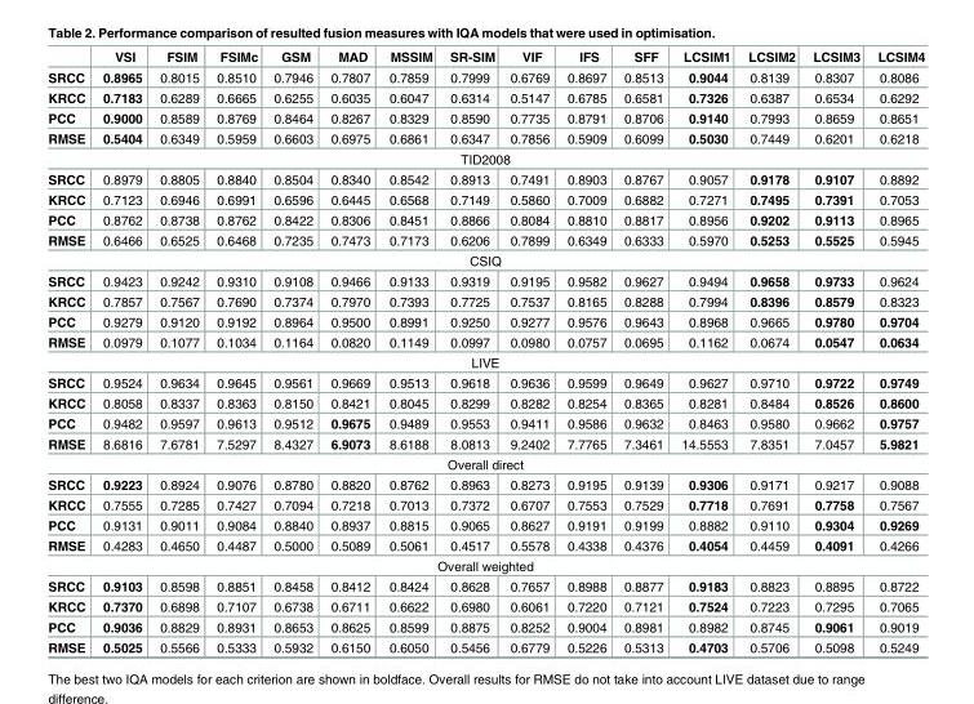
<table><thead><tr><td></td><td>VSI</td><td>FSIM</td><td>FSIMc</td><td>GSM</td><td>MAD</td><td>MSSIM</td><td>SR-SIM</td><td>VIF</td><td>IFS</td><td>SFF</td><td>LCSIM1</td><td>LCSIM2</td><td>LCSIM3</td><td>LCSIM4</td></tr></thead><tbody><tr><td>SRCC</td><td>0.8965</td><td>0.8015</td><td>0.8510</td><td>0.7946</td><td>0.7807</td><td>0.7859</td><td>0.7999</td><td>0.6769</td><td>0.8697</td><td>0.8513</td><td>0.9044</td><td>0.8139</td><td>0.8307</td><td>0.8086</td></tr><tr><td>KRCC</td><td>0.7183</td><td>0.6289</td><td>0.6665</td><td>0.6255</td><td>0.6035</td><td>0.6047</td><td>0.6314</td><td>0.5147</td><td>0.6785</td><td>0.6581</td><td>0.7326</td><td>0.6387</td><td>0.6534</td><td>0.6292</td></tr><tr><td>PCC</td><td>0.9000</td><td>0.8589</td><td>0.8769</td><td>0.8464</td><td>0.8267</td><td>0.8329</td><td>0.8590</td><td>0.7735</td><td>0.8791</td><td>0.8706</td><td>0.9140</td><td>0.7993</td><td>0.8659</td><td>0.8651</td></tr><tr><td>RMSE</td><td>0.5404</td><td>0.6349</td><td>0.5959</td><td>0.6603</td><td>0.6975</td><td>0.6861</td><td>0.6347</td><td>0.7856</td><td>0.5909</td><td>0.6099</td><td>0.5030</td><td>0.7449</td><td>0.6201</td><td>0.6218</td></tr><tr><td colspan="15">TID2008</td></tr><tr><td>SRCC</td><td>0.8979</td><td>0.8805</td><td>0.8840</td><td>0.8504</td><td>0.8340</td><td>0.8542</td><td>0.8913</td><td>0.7491</td><td>0.8903</td><td>0.8767</td><td>0.9057</td><td>0.9178</td><td>0.9107</td><td>0.8892</td></tr><tr><td>KRCC</td><td>0.7123</td><td>0.6946</td><td>0.6991</td><td>0.6596</td><td>0.6445</td><td>0.6568</td><td>0.7149</td><td>0.5860</td><td>0.7009</td><td>0.6882</td><td>0.7271</td><td>0.7495</td><td>0.7391</td><td>0.7053</td></tr><tr><td>PCC</td><td>0.8762</td><td>0.8738</td><td>0.8762</td><td>0.8422</td><td>0.8306</td><td>0.8451</td><td>0.8866</td><td>0.8084</td><td>0.8810</td><td>0.8817</td><td>0.8956</td><td>0.9202</td><td>0.9113</td><td>0.8965</td></tr><tr><td>RMSE</td><td>0.6466</td><td>0.6525</td><td>0.6468</td><td>0.7235</td><td>0.7473</td><td>0.7173</td><td>0.6206</td><td>0.7899</td><td>0.6349</td><td>0.6333</td><td>0.5970</td><td>0.5253</td><td>0.5525</td><td>0.5945</td></tr><tr><td colspan="15">CSIQ</td></tr><tr><td>SRCC</td><td>0.9423</td><td>0.9242</td><td>0.9310</td><td>0.9108</td><td>0.9466</td><td>0.9133</td><td>0.9319</td><td>0.9195</td><td>0.9582</td><td>0.9627</td><td>0.9494</td><td>0.9658</td><td>0.9733</td><td>0.9624</td></tr><tr><td>KRCC</td><td>0.7857</td><td>0.7567</td><td>0.7690</td><td>0.7374</td><td>0.7970</td><td>0.7393</td><td>0.7725</td><td>0.7537</td><td>0.8165</td><td>0.8288</td><td>0.7994</td><td>0.8396</td><td>0.8579</td><td>0.8323</td></tr><tr><td>PCC</td><td>0.9279</td><td>0.9120</td><td>0.9192</td><td>0.8964</td><td>0.9500</td><td>0.8991</td><td>0.9250</td><td>0.9277</td><td>0.9576</td><td>0.9643</td><td>0.8968</td><td>0.9665</td><td>0.9780</td><td>0.9704</td></tr><tr><td>RMSE</td><td>0.0979</td><td>0.1077</td><td>0.1034</td><td>0.1164</td><td>0.0820</td><td>0.1149</td><td>0.0997</td><td>0.0980</td><td>0.0757</td><td>0.0695</td><td>0.1162</td><td>0.0674</td><td>0.0547</td><td>0.0634</td></tr><tr><td colspan="15">LIVE</td></tr><tr><td>SRCC</td><td>0.9524</td><td>0.9634</td><td>0.9645</td><td>0.9561</td><td>0.9669</td><td>0.9513</td><td>0.9618</td><td>0.9636</td><td>0.9599</td><td>0.9649</td><td>0.9627</td><td>0.9710</td><td>0.9722</td><td>0.9749</td></tr><tr><td>KRCC</td><td>0.8058</td><td>0.8337</td><td>0.8363</td><td>0.8150</td><td>0.8421</td><td>0.8045</td><td>0.8299</td><td>0.8282</td><td>0.8254</td><td>0.8365</td><td>0.8281</td><td>0.8484</td><td>0.8526</td><td>0.8600</td></tr><tr><td>PCC</td><td>0.9482</td><td>0.9597</td><td>0.9613</td><td>0.9512</td><td>0.9675</td><td>0.9489</td><td>0.9553</td><td>0.9411</td><td>0.9586</td><td>0.9632</td><td>0.8463</td><td>0.9580</td><td>0.9662</td><td>0.9757</td></tr><tr><td>RMSE</td><td>8.6816</td><td>7.6781</td><td>7.5297</td><td>8.4327</td><td>6.9073</td><td>8.6188</td><td>8.0813</td><td>9.2402</td><td>7.7765</td><td>7.3461</td><td>14.5553</td><td>7.8351</td><td>7.0457</td><td>5.9821</td></tr><tr><td colspan="15">Overall direct</td></tr><tr><td>SRCC</td><td>0.9223</td><td>0.8924</td><td>0.9076</td><td>0.8780</td><td>0.8820</td><td>0.8762</td><td>0.8963</td><td>0.8273</td><td>0.9195</td><td>0.9139</td><td>0.9306</td><td>0.9171</td><td>0.9217</td><td>0.9088</td></tr><tr><td>KRCC</td><td>0.7555</td><td>0.7285</td><td>0.7427</td><td>0.7094</td><td>0.7218</td><td>0.7013</td><td>0.7372</td><td>0.6707</td><td>0.7553</td><td>0.7529</td><td>0.7718</td><td>0.7691</td><td>0.7758</td><td>0.7567</td></tr><tr><td>PCC</td><td>0.9131</td><td>0.9011</td><td>0.9084</td><td>0.8840</td><td>0.8937</td><td>0.8815</td><td>0.9065</td><td>0.8627</td><td>0.9191</td><td>0.9199</td><td>0.8882</td><td>0.9110</td><td>0.9304</td><td>0.9269</td></tr><tr><td>RMSE</td><td>0.4283</td><td>0.4650</td><td>0.4487</td><td>0.5000</td><td>0.5089</td><td>0.5061</td><td>0.4517</td><td>0.5578</td><td>0.4338</td><td>0.4376</td><td>0.4054</td><td>0.4459</td><td>0.4091</td><td>0.4266</td></tr><tr><td colspan="15">Overall weighted</td></tr><tr><td>SRCC</td><td>0.9103</td><td>0.8598</td><td>0.8851</td><td>0.8458</td><td>0.8412</td><td>0.8424</td><td>0.8628</td><td>0.7657</td><td>0.8988</td><td>0.8877</td><td>0.9183</td><td>0.8823</td><td>0.8895</td><td>0.8722</td></tr><tr><td>KRCC</td><td>0.7370</td><td>0.6898</td><td>0.7107</td><td>0.6738</td><td>0.6711</td><td>0.6622</td><td>0.6980</td><td>0.6061</td><td>0.7220</td><td>0.7121</td><td>0.7524</td><td>0.7223</td><td>0.7295</td><td>0.7065</td></tr><tr><td>PCC</td><td>0.9036</td><td>0.8829</td><td>0.8931</td><td>0.8653</td><td>0.8625</td><td>0.8599</td><td>0.8875</td><td>0.8252</td><td>0.9004</td><td>0.8981</td><td>0.8982</td><td>0.8745</td><td>0.9061</td><td>0.9019</td></tr><tr><td>RMSE</td><td>0.5025</td><td>0.5566</td><td>0.5333</td><td>0.5932</td><td>0.6150</td><td>0.6050</td><td>0.5456</td><td>0.6779</td><td>0.5226</td><td>0.5313</td><td>0.4703</td><td>0.5706</td><td>0.5098</td><td>0.5249</td></tr></tbody></table>